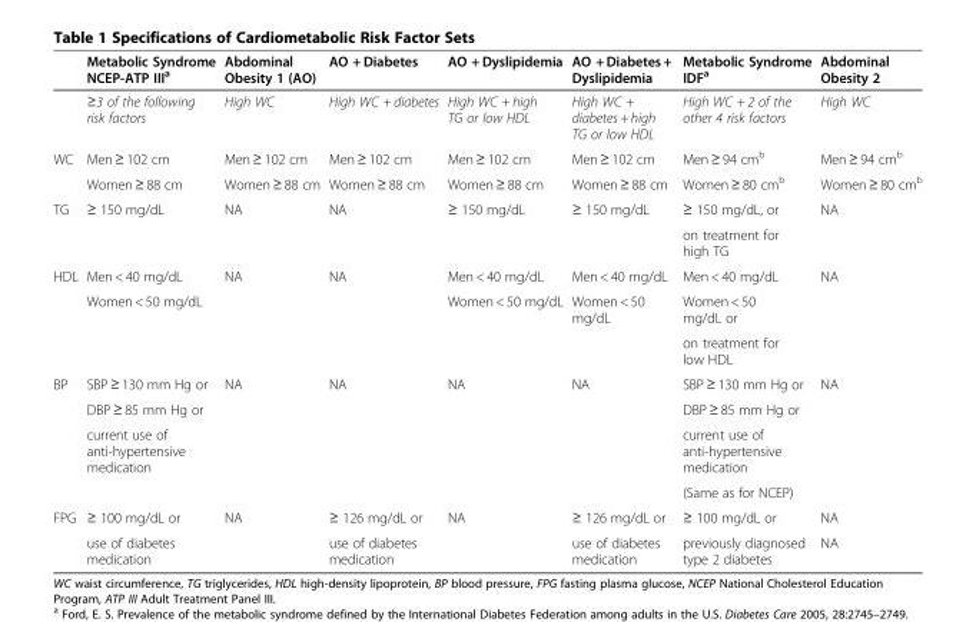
<table><thead><tr><td></td><td>Metabolic Syndrome NCEP-ATP III<sup>a</sup></td><td>Abdominal Obesity 1 (AO)</td><td>AO + Diabetes</td><td>AO + Dyslipidemia</td><td>AO + Diabetes + Dyslipidemia</td><td>Metabolic Syndrome IDF<sup>a</sup></td><td>Abdominal Obesity 2</td></tr></thead><tbody><tr><td></td><td>≥3 of the following risk factors</td><td>High WC</td><td>High WC + diabetes</td><td>High WC + high TG or low HDL</td><td>High WC + diabetes + high TG or low HDL</td><td>High WC + 2 of the other 4 risk factors</td><td>High WC</td></tr><tr><td rowspan="2">WC</td><td>Men ≥ 102 cm</td><td>Men ≥ 102 cm</td><td>Men ≥ 102 cm</td><td>Men ≥ 102 cm</td><td>Men ≥ 102 cm</td><td>Men ≥ 94 cm<sup>b</sup></td><td>Men ≥ 94 cm<sup>b</sup></td></tr><tr><td>Women ≥ 88 cm</td><td>Women ≥ 88 cm</td><td>Women ≥ 88 cm</td><td>Women ≥ 88 cm</td><td>Women ≥ 88 cm</td><td>Women ≥ 80 cm<sup>b</sup></td><td>Women ≥ 80 cm<sup>b</sup></td></tr><tr><td rowspan="2">TG</td><td>≥ 150 mg/dL</td><td>NA</td><td>NA</td><td>≥ 150 mg/dL</td><td>≥ 150 mg/dL</td><td>≥ 150 mg/dL, or</td><td>NA</td></tr><tr><td></td><td></td><td></td><td></td><td></td><td>on treatment for high TG</td><td></td></tr><tr><td rowspan="3">HDL</td><td>Men &lt; 40 mg/dL</td><td>NA</td><td>NA</td><td>Men &lt; 40 mg/dL</td><td>Men &lt; 40 mg/dL</td><td>Men &lt; 40 mg/dL</td><td>NA</td></tr><tr><td>Women &lt; 50 mg/dL</td><td></td><td></td><td>Women &lt; 50 mg/dL</td><td>Women &lt; 50 mg/dL</td><td>Women &lt; 50 mg/dL or</td><td></td></tr><tr><td></td><td></td><td></td><td></td><td></td><td>on treatment for low HDL</td><td></td></tr><tr><td rowspan="4">BP</td><td>SBP ≥ 130 mm Hg or</td><td>NA</td><td>NA</td><td>NA</td><td>NA</td><td>SBP ≥ 130 mm Hg or</td><td>NA</td></tr><tr><td>DBP ≥ 85 mm Hg or</td><td></td><td></td><td></td><td></td><td>DBP ≥ 85 mm Hg or</td><td></td></tr><tr><td>current use of anti-hypertensive medication</td><td></td><td></td><td></td><td></td><td>current use of anti-hypertensive medication</td><td></td></tr><tr><td></td><td></td><td></td><td></td><td></td><td>(Same as for NCEP)</td><td></td></tr><tr><td rowspan="2">FPG</td><td>≥ 100 mg/dL or</td><td>NA</td><td>≥ 126 mg/dL or</td><td>NA</td><td>≥ 126 mg/dL or</td><td>≥ 100 mg/dL or</td><td>NA</td></tr><tr><td>use of diabetes medication</td><td></td><td>use of diabetes medication</td><td></td><td>use of diabetes medication</td><td>previously diagnosed type 2 diabetes</td><td>NA</td></tr></tbody></table>